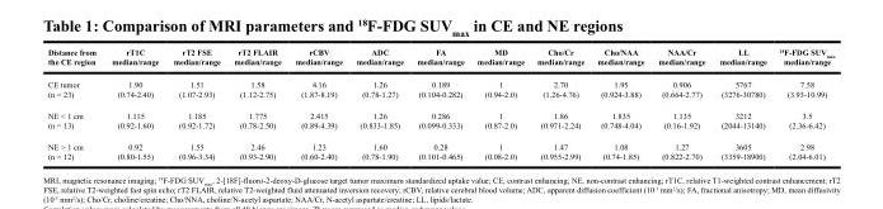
<table><thead><tr><td>Distance from the CE region</td><td>rT1C median/range</td><td>rT2 FSE median/range</td><td>rT2 FLAIR median/range</td><td>rCBV median/range</td><td>ADC median/range</td><td>FA median/range</td><td>MD median/range</td><td>Cho/Cr median/range</td><td>Cho/NAA median/range</td><td>NAA/Cr median/range</td><td>LL median/range</td><td><sup>18</sup>F-FDG SUV<sub>max</sub> median/range</td></tr></thead><tbody><tr><td>CE tumor (n = 23)</td><td>1.90 (0.74-2.40)</td><td>1.51 (1.07-2.93)</td><td>1.58 (1.12-2.75)</td><td>4.16 (1.87-8.19)</td><td>1.26 (0.78-1.27)</td><td>0.189 (0.104-0.282)</td><td>1 (0.94-2.0)</td><td>2.70 (1.26-4.76)</td><td>1.95 (0.924-3.88)</td><td>0.906 (0.664-2.77)</td><td>5767 (3276-30780)</td><td>7.58 (3.93-10.99)</td></tr><tr><td>NE &lt; 1 cm (n = 13)</td><td>1.115 (0.92-1.60)</td><td>1.185 (0.92-1.72)</td><td>1.775 (0.78-2.50)</td><td>2.415 (0.89-4.39)</td><td>1.26 (0.833-1.85)</td><td>0.286 (0.099-0.333)</td><td>1 (0.87-2.0)</td><td>1.86 (0.971-2.24)</td><td>1.835 (0.748-4.04)</td><td>1.135 (0.16-1.92)</td><td>3212 (2044-13140)</td><td>3.5 (2.36-6.42)</td></tr><tr><td>NE &gt; 1 cm (n = 12)</td><td>0.92 (0.80-1.55)</td><td>1.55 (0.96-3.34)</td><td>2.46 (0.93-2.90)</td><td>1.23 (0.60-2.40)</td><td>1.60 (0.78-1.90)</td><td>0.28 (0.101-0.465)</td><td>1 (0.08-2.0)</td><td>1.47 (0.955-2.99)</td><td>1.08 (0.74-1.85)</td><td>1.27 (0.822-2.70)</td><td>3605 (3359-18900)</td><td>2.98 (2.04-6.01)</td></tr></tbody></table>